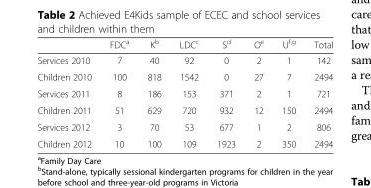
<table><thead><tr><td></td><td>FDC<sup>a</sup></td><td>K<sup>b</sup></td><td>LDC<sup>c</sup></td><td>S<sup>d</sup></td><td>O<sup>e</sup></td><td>U<sup>f,g</sup></td><td>Total</td></tr></thead><tbody><tr><td>Services 2010</td><td>7</td><td>40</td><td>92</td><td>0</td><td>2</td><td>1</td><td>142</td></tr><tr><td>Children 2010</td><td>100</td><td>818</td><td>1542</td><td>0</td><td>27</td><td>7</td><td>2494</td></tr><tr><td>Services 2011</td><td>8</td><td>186</td><td>153</td><td>371</td><td>2</td><td>1</td><td>721</td></tr><tr><td>Children 2011</td><td>51</td><td>629</td><td>720</td><td>932</td><td>12</td><td>150</td><td>2494</td></tr><tr><td>Services 2012</td><td>3</td><td>70</td><td>53</td><td>677</td><td>1</td><td>2</td><td>806</td></tr><tr><td>Children 2012</td><td>10</td><td>100</td><td>109</td><td>1923</td><td>2</td><td>350</td><td>2494</td></tr></tbody></table>